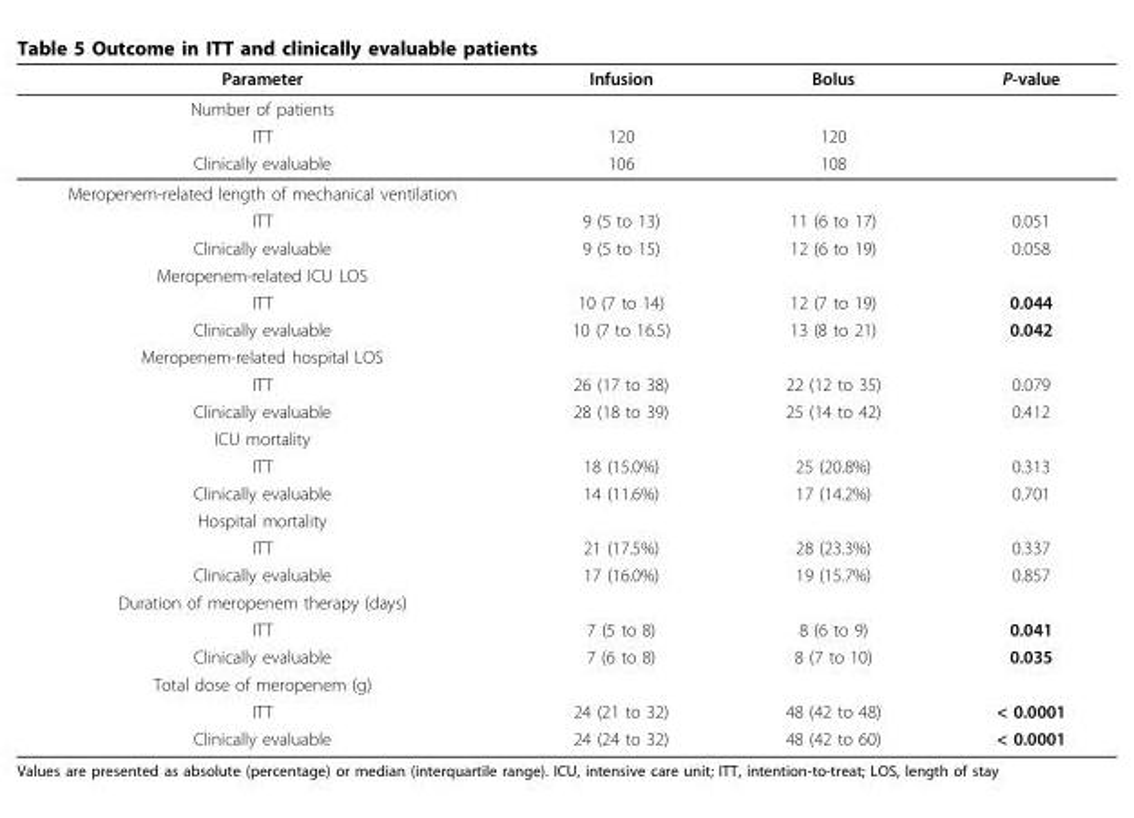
<table><thead><tr><td>Parameter</td><td>Infusion</td><td>Bolus</td><td>P-value</td></tr></thead><tbody><tr><td colspan="4">Number of patients</td></tr><tr><td>ITT</td><td>120</td><td>120</td><td></td></tr><tr><td>Clinically evaluable</td><td>106</td><td>108</td><td></td></tr><tr><td colspan="4">Meropenem-related length of mechanical ventilation</td></tr><tr><td>ITT</td><td>9 (5 to 13)</td><td>11 (6 to 17)</td><td>0.051</td></tr><tr><td>Clinically evaluable</td><td>9 (5 to 15)</td><td>12 (6 to 19)</td><td>0.058</td></tr><tr><td colspan="4">Meropenem-related ICU LOS</td></tr><tr><td>ITT</td><td>10 (7 to 14)</td><td>12 (7 to 19)</td><td>0.044</td></tr><tr><td>Clinically evaluable</td><td>10 (7 to 16.5)</td><td>13 (8 to 21)</td><td>0.042</td></tr><tr><td colspan="4">Meropenem-related hospital LOS</td></tr><tr><td>ITT</td><td>26 (17 to 38)</td><td>22 (12 to 35)</td><td>0.079</td></tr><tr><td>Clinically evaluable</td><td>28 (18 to 39)</td><td>25 (14 to 42)</td><td>0.412</td></tr><tr><td colspan="4">ICU mortality</td></tr><tr><td>ITT</td><td>18 (15.0%)</td><td>25 (20.8%)</td><td>0.313</td></tr><tr><td>Clinically evaluable</td><td>14 (11.6%)</td><td>17 (14.2%)</td><td>0.701</td></tr><tr><td colspan="4">Hospital mortality</td></tr><tr><td>ITT</td><td>21 (17.5%)</td><td>28 (23.3%)</td><td>0.337</td></tr><tr><td>Clinically evaluable</td><td>17 (16.0%)</td><td>19 (15.7%)</td><td>0.857</td></tr><tr><td colspan="4">Duration of meropenem therapy (days)</td></tr><tr><td>ITT</td><td>7 (5 to 8)</td><td>8 (6 to 9)</td><td>0.041</td></tr><tr><td>Clinically evaluable</td><td>7 (6 to 8)</td><td>8 (7 to 10)</td><td>0.035</td></tr><tr><td colspan="4">Total dose of meropenem (g)</td></tr><tr><td>ITT</td><td>24 (21 to 32)</td><td>48 (42 to 48)</td><td>&lt; 0.0001</td></tr><tr><td>Clinically evaluable</td><td>24 (24 to 32)</td><td>48 (42 to 60)</td><td>&lt; 0.0001</td></tr></tbody></table>